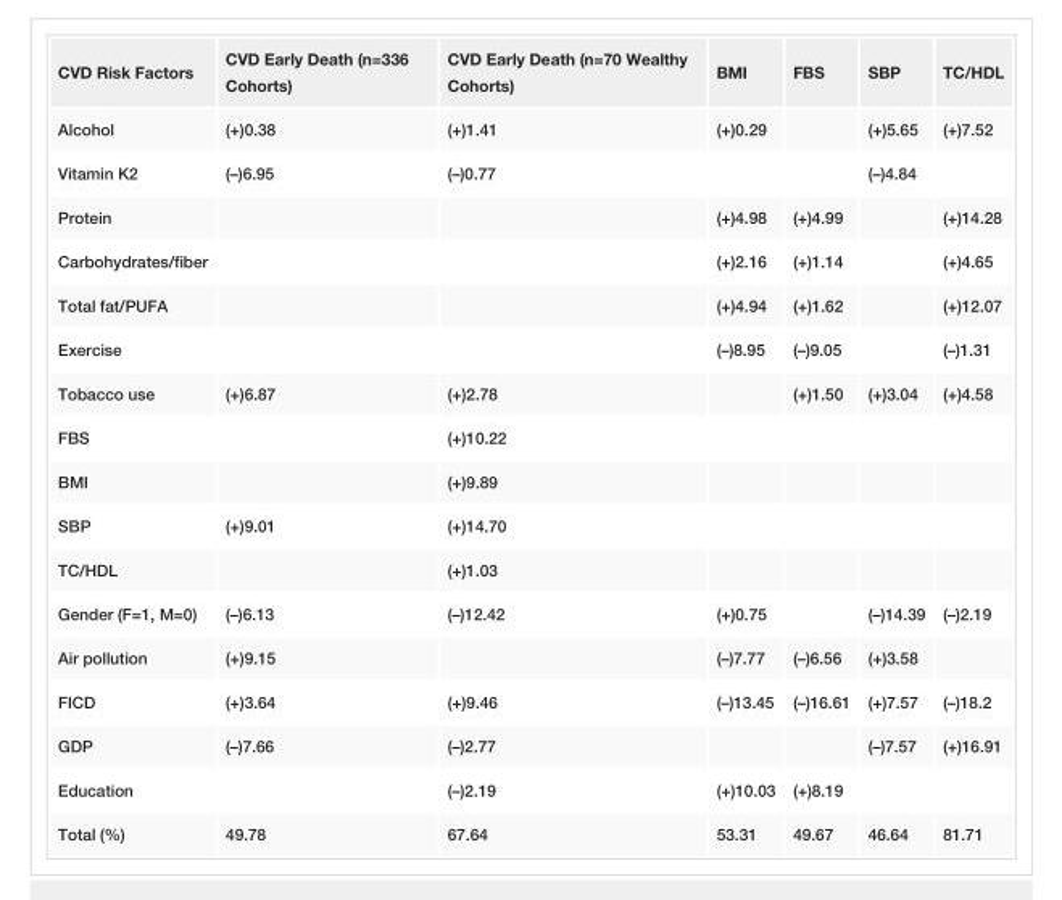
<table><tbody><tr><td>CVD Risk Factors</td><td>CVD Early Death (n=336 Cohorts)</td><td>CVD Early Death (n=70 Wealthy Cohorts)</td><td>BMI</td><td>FBS</td><td>SBP</td><td>TC/HDL</td></tr><tr><td>Alcohol</td><td>(+)0.38</td><td>(+)1.41</td><td>(+)0.29</td><td></td><td>(+)5.65</td><td>(+)7.52</td></tr><tr><td>Vitamin K2</td><td>(–)6.95</td><td>(–)0.77</td><td></td><td></td><td>(–)4.84</td><td></td></tr><tr><td>Protein</td><td></td><td></td><td>(+)4.98</td><td>(+)4.99</td><td></td><td>(+)14.28</td></tr><tr><td>Carbohydrates/fiber</td><td></td><td></td><td>(+)2.16</td><td>(+)1.14</td><td></td><td>(+)4.65</td></tr><tr><td>Total fat/PUFA</td><td></td><td></td><td>(+)4.94</td><td>(+)1.62</td><td></td><td>(+)12.07</td></tr><tr><td>Exercise</td><td></td><td></td><td>(–)8.95</td><td>(–)9.05</td><td></td><td>(–)1.31</td></tr><tr><td>Tobacco use</td><td>(+)6.87</td><td>(+)2.78</td><td></td><td>(+)1.50</td><td>(+)3.04</td><td>(+)4.58</td></tr><tr><td>FBS</td><td></td><td>(+)10.22</td><td></td><td></td><td></td><td></td></tr><tr><td>BMI</td><td></td><td>(+)9.89</td><td></td><td></td><td></td><td></td></tr><tr><td>SBP</td><td>(+)9.01</td><td>(+)14.70</td><td></td><td></td><td></td><td></td></tr><tr><td>TC/HDL</td><td></td><td>(+)1.03</td><td></td><td></td><td></td><td></td></tr><tr><td>Gender (F=1, M=0)</td><td>(–)6.13</td><td>(–)12.42</td><td>(+)0.75</td><td></td><td>(–)14.39</td><td>(–)2.19</td></tr><tr><td>Air pollution</td><td>(+)9.15</td><td></td><td>(–)7.77</td><td>(–)6.56</td><td>(+)3.58</td><td></td></tr><tr><td>FICD</td><td>(+)3.64</td><td>(+)9.46</td><td>(–)13.45</td><td>(–)16.61</td><td>(+)7.57</td><td>(–)18.2</td></tr><tr><td>GDP</td><td>(–)7.66</td><td>(–)2.77</td><td></td><td></td><td>(–)7.57</td><td>(+)16.91</td></tr><tr><td>Education</td><td></td><td>(–)2.19</td><td>(+)10.03</td><td>(+)8.19</td><td></td><td></td></tr><tr><td>Total (%)</td><td>49.78</td><td>67.64</td><td>53.31</td><td>49.67</td><td>46.64</td><td>81.71</td></tr></tbody></table>